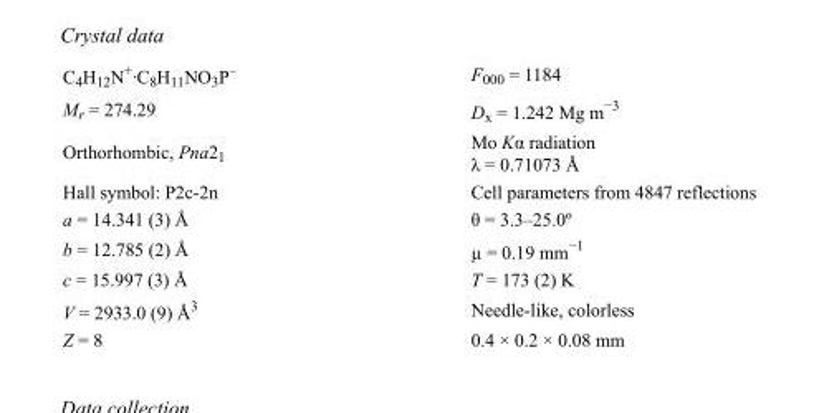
<table><tbody><tr><td>C<sub>4</sub>H<sub>12</sub>N<sup>+</sup>·C<sub>8</sub>H<sub>11</sub>NO<sub>3</sub>P<sup>–</sup></td><td>F000 = 1184</td></tr><tr><td>M<sub>r</sub> = 274.29</td><td>D<sub>x</sub> = 1.242 Mg m<sup>−3</sup></td></tr><tr><td>Orthorhombic, Pna2<sub>1</sub></td><td>Mo Kα radiation λ = 0.71073 Å</td></tr><tr><td>Hall symbol: P2c-2n</td><td>Cell parameters from 4847 reflections</td></tr><tr><td>a = 14.341 (3) Å</td><td>θ = 3.3–25.0º</td></tr><tr><td>b = 12.785 (2) Å</td><td>µ = 0.19 mm<sup>−1</sup></td></tr><tr><td>c = 15.997 (3) Å</td><td>T = 173 (2) K</td></tr><tr><td>V = 2933.0 (9) Å<sup>3</sup></td><td>Needle-like, colorless</td></tr><tr><td>Z = 8</td><td>0.4 × 0.2 × 0.08 mm</td></tr></tbody></table>